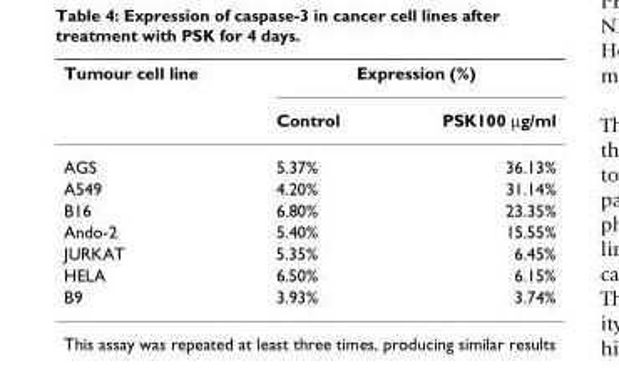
<table><thead><tr><td rowspan="2">Tumour cell line</td><td colspan="2">Expression (%)</td></tr><tr><td>Control</td><td>PSK100 μg/ml</td></tr></thead><tbody><tr><td>AGS</td><td>5.37%</td><td>36.13%</td></tr><tr><td>A549</td><td>4.20%</td><td>31.14%</td></tr><tr><td>B16</td><td>6.80%</td><td>23.35%</td></tr><tr><td>Ando-2</td><td>5.40%</td><td>15.55%</td></tr><tr><td>JURKAT</td><td>5.35%</td><td>6.45%</td></tr><tr><td>HELA</td><td>6.50%</td><td>6.15%</td></tr><tr><td>B9</td><td>3.93%</td><td>3.74%</td></tr></tbody></table>